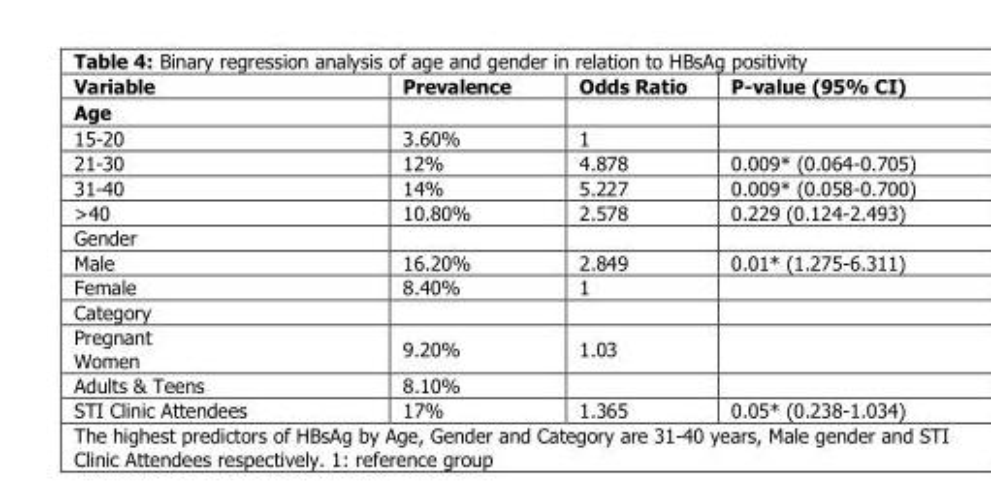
<table><thead><tr><td>Variable</td><td>Prevalence</td><td>Odds Ratio</td><td>P-value (95% CI)</td></tr></thead><tbody><tr><td colspan="4">Age</td></tr><tr><td>15-20</td><td>3.60%</td><td>1</td><td></td></tr><tr><td>21-30</td><td>12%</td><td>4.878</td><td>0.009* (0.064-0.705)</td></tr><tr><td>31-40</td><td>14%</td><td>5.227</td><td>0.009* (0.058-0.700)</td></tr><tr><td>&gt;40</td><td>10.80%</td><td>2.578</td><td>0.229 (0.124-2.493)</td></tr><tr><td colspan="4">Gender</td></tr><tr><td>Male</td><td>16.20%</td><td>2.849</td><td>0.01* (1.275-6.311)</td></tr><tr><td>Female</td><td>8.40%</td><td>1</td><td></td></tr><tr><td colspan="4">Category</td></tr><tr><td>Pregnant Women</td><td>9.20%</td><td>1.03</td><td></td></tr><tr><td>Adults &amp; Teens</td><td>8.10%</td><td></td><td></td></tr><tr><td>STI Clinic Attendees</td><td>17%</td><td>1.365</td><td>0.05* (0.238-1.034)</td></tr></tbody></table>